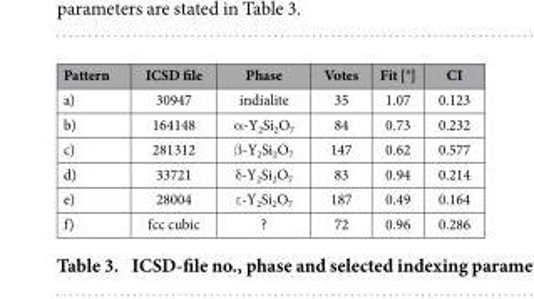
<table><thead><tr><td>Pattern</td><td>ICSD file</td><td>Phase</td><td>Votes</td><td>Fit [°]</td><td>CI</td></tr></thead><tbody><tr><td>a)</td><td>30947</td><td>indialite</td><td>35</td><td>1.07</td><td>0.123</td></tr><tr><td>b)</td><td>164148</td><td>α -Y<sub>2</sub>Si<sub>2</sub>O<sub>7</sub></td><td>84</td><td>0.73</td><td>0.232</td></tr><tr><td>c)</td><td>281312</td><td>β -Y<sub>2</sub>Si<sub>2</sub>O<sub>7</sub></td><td>147</td><td>0.62</td><td>0.577</td></tr><tr><td>d)</td><td>33721</td><td>δ -Y<sub>2</sub>Si<sub>2</sub>O<sub>7</sub></td><td>83</td><td>0.94</td><td>0.214</td></tr><tr><td>e)</td><td>28004</td><td>ε -Y<sub>2</sub>Si<sub>2</sub>O<sub>7</sub></td><td>187</td><td>0.49</td><td>0.164</td></tr><tr><td>f)</td><td>fcc cubic</td><td>?</td><td>72</td><td>0.96</td><td>0.286</td></tr></tbody></table>